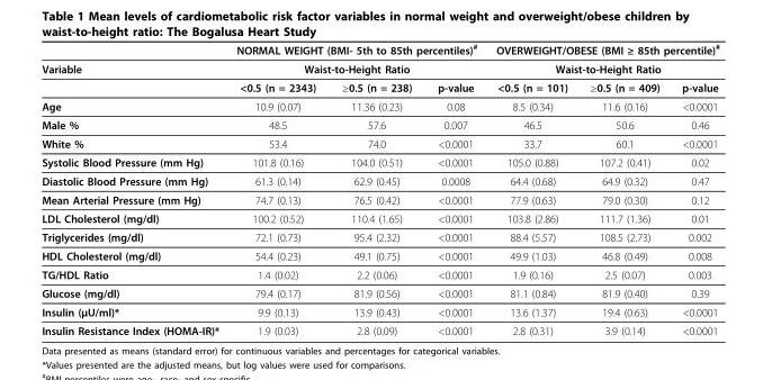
<table><thead><tr><td rowspan="3">Variable</td><td rowspan="2" colspan="3">NORMAL WEIGHT (BMI- 5th to 85th percentiles)# Waist-to-Height Ratio</td><td rowspan="2" colspan="3">OVERWEIGHT/OBESE (BMI ≥ 85th percentile)# Waist-to-Height Ratio</td></tr><tr></tr><tr><td>&lt;0.5 (n = 2343)</td><td>≥0.5 (n = 238)</td><td>p-value</td><td>&lt;0.5 (n = 101)</td><td>≥0.5 (n = 409)</td><td>p-value</td></tr></thead><tbody><tr><td>Age</td><td>10.9 (0.07)</td><td>11.36 (0.23)</td><td>0.08</td><td>8.5 (0.34)</td><td>11.6 (0.16)</td><td>&lt;0.0001</td></tr><tr><td>Male %</td><td>48.5</td><td>57.6</td><td>0.007</td><td>46.5</td><td>50.6</td><td>0.46</td></tr><tr><td>White %</td><td>53.4</td><td>74.0</td><td>&lt;0.0001</td><td>33.7</td><td>60.1</td><td>&lt;0.0001</td></tr><tr><td>Systolic Blood Pressure (mm Hg)</td><td>101.8 (0.16)</td><td>104.0 (0.51)</td><td>&lt;0.0001</td><td>105.0 (0.88)</td><td>107.2 (0.41)</td><td>0.02</td></tr><tr><td>Diastolic Blood Pressure (mm Hg)</td><td>61.3 (0.14)</td><td>62.9 (0.45)</td><td>0.0008</td><td>64.4 (0.68)</td><td>64.9 (0.32)</td><td>0.47</td></tr><tr><td>Mean Arterial Pressure (mm Hg)</td><td>74.7 (0.13)</td><td>76.5 (0.42)</td><td>&lt;0.0001</td><td>77.9 (0.63)</td><td>79.0 (0.30)</td><td>0.12</td></tr><tr><td>LDL Cholesterol (mg/dl)</td><td>100.2 (0.52)</td><td>110.4 (1.65)</td><td>&lt;0.0001</td><td>103.8 (2.86)</td><td>111.7 (1.36)</td><td>0.01</td></tr><tr><td>Triglycerides (mg/dl)</td><td>72.1 (0.73)</td><td>95.4 (2.32)</td><td>&lt;0.0001</td><td>88.4 (5.57)</td><td>108.5 (2.73)</td><td>0.002</td></tr><tr><td>HDL Cholesterol (mg/dl)</td><td>54.4 (0.23)</td><td>49.1 (0.75)</td><td>&lt;0.0001</td><td>49.9 (1.03)</td><td>46.8 (0.49)</td><td>0.008</td></tr><tr><td>TG/HDL Ratio</td><td>1.4 (0.02)</td><td>2.2 (0.06)</td><td>&lt;0.0001</td><td>1.9 (0.16)</td><td>2.5 (0.07)</td><td>0.003</td></tr><tr><td>Glucose (mg/dl)</td><td>79.4 (0.17)</td><td>81.9 (0.56)</td><td>&lt;0.0001</td><td>81.1 (0.84)</td><td>81.9 (0.40)</td><td>0.39</td></tr><tr><td>Insulin (μU/ml)*</td><td>9.9 (0.13)</td><td>13.9 (0.43)</td><td>&lt;0.0001</td><td>13.6 (1.37)</td><td>19.4 (0.63)</td><td>&lt;0.0001</td></tr><tr><td>Insulin Resistance Index (HOMA-IR)*</td><td>1.9 (0.03)</td><td>2.8 (0.09)</td><td>&lt;0.0001</td><td>2.8 (0.31)</td><td>3.9 (0.14)</td><td>&lt;0.0001</td></tr></tbody></table>